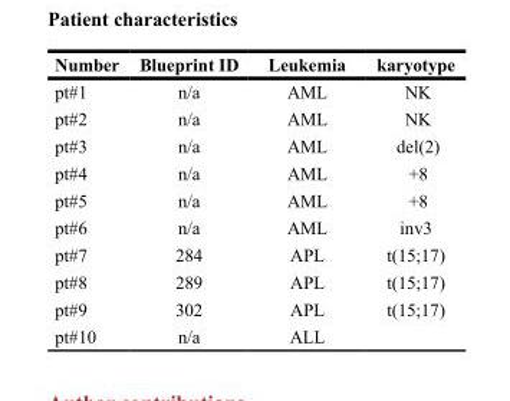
<table><thead><tr><td>Number</td><td>Blueprint ID</td><td>Leukemia</td><td>karyotype</td></tr></thead><tbody><tr><td>pt#1</td><td>n/a</td><td>AML</td><td>NK</td></tr><tr><td>pt#2</td><td>n/a</td><td>AML</td><td>NK</td></tr><tr><td>pt#3</td><td>n/a</td><td>AML</td><td>del(2)</td></tr><tr><td>pt#4</td><td>n/a</td><td>AML</td><td>+8</td></tr><tr><td>pt#5</td><td>n/a</td><td>AML</td><td>+8</td></tr><tr><td>pt#6</td><td>n/a</td><td>AML</td><td>inv3</td></tr><tr><td>pt#7</td><td>284</td><td>APL</td><td>t(15;17)</td></tr><tr><td>pt#8</td><td>289</td><td>APL</td><td>t(15;17)</td></tr><tr><td>pt#9</td><td>302</td><td>APL</td><td>t(15;17)</td></tr><tr><td>pt#10</td><td>n/a</td><td>ALL</td><td></td></tr></tbody></table>